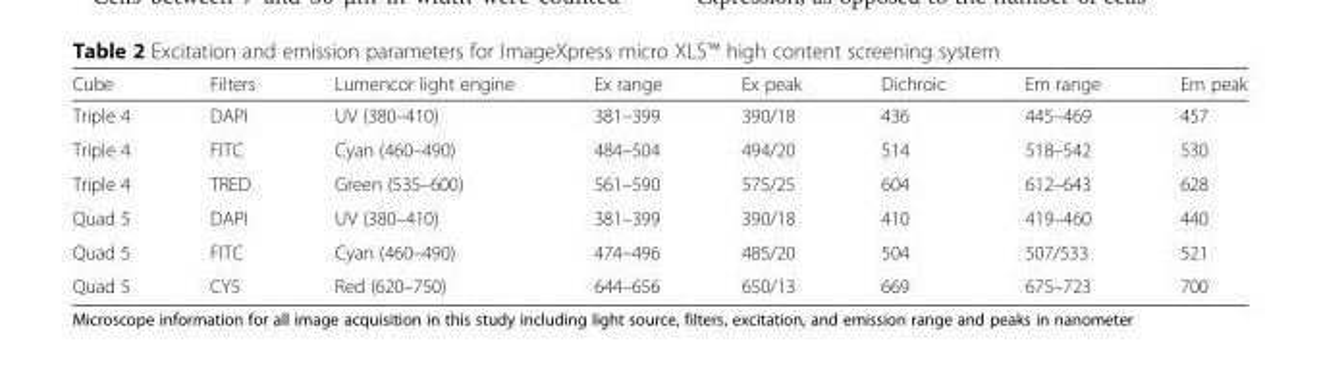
<table><thead><tr><td>Cube</td><td>Filters</td><td>Lumencor light engine</td><td>Ex range</td><td>Ex peak</td><td>Dichroic</td><td>Em range</td><td>Em peak</td></tr></thead><tbody><tr><td>Triple 4</td><td>DAPI</td><td>UV (380–410)</td><td>381–399</td><td>390/18</td><td>436</td><td>445–469</td><td>457</td></tr><tr><td>Triple 4</td><td>FITC</td><td>Cyan (460–490)</td><td>484–504</td><td>494/20</td><td>514</td><td>518–542</td><td>530</td></tr><tr><td>Triple 4</td><td>TRED</td><td>Green (535–600)</td><td>561–590</td><td>575/25</td><td>604</td><td>612–643</td><td>628</td></tr><tr><td>Quad 5</td><td>DAPI</td><td>UV (380–410)</td><td>381–399</td><td>390/18</td><td>410</td><td>419–460</td><td>440</td></tr><tr><td>Quad 5</td><td>FITC</td><td>Cyan (460–490)</td><td>474–496</td><td>485/20</td><td>504</td><td>507/533</td><td>521</td></tr><tr><td>Quad 5</td><td>CY5</td><td>Red (620–750)</td><td>644–656</td><td>650/13</td><td>669</td><td>675–723</td><td>700</td></tr></tbody></table>